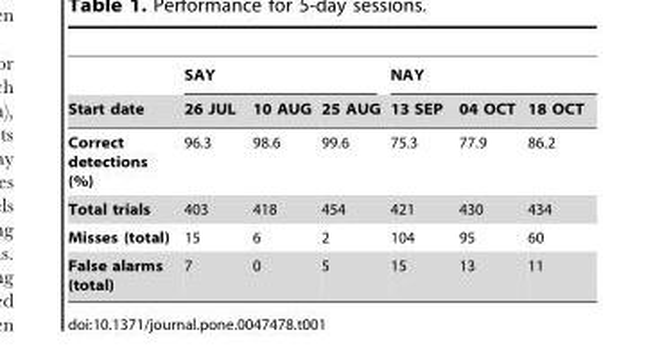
<table><thead><tr><td rowspan="2">Start date</td><td colspan="3">SAY</td><td colspan="3">NAY</td></tr><tr><td>26 JUL</td><td>10 AUG</td><td>25 AUG</td><td>13 SEP</td><td>04 OCT</td><td>18 OCT</td></tr></thead><tbody><tr><td>Correct detections (%)</td><td>96.3</td><td>98.6</td><td>99.6</td><td>75.3</td><td>77.9</td><td>86.2</td></tr><tr><td>Total trials</td><td>403</td><td>418</td><td>454</td><td>421</td><td>430</td><td>434</td></tr><tr><td>Misses (total)</td><td>15</td><td>6</td><td>2</td><td>104</td><td>95</td><td>60</td></tr><tr><td>False alarms (total)</td><td>7</td><td>0</td><td>5</td><td>15</td><td>13</td><td>11</td></tr></tbody></table>